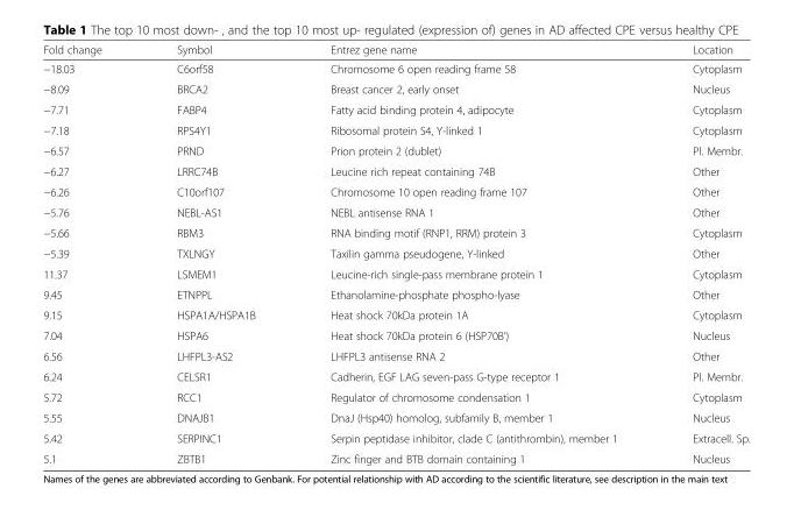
<table><thead><tr><td>Fold change</td><td>Symbol</td><td>Entrez gene name</td><td>Location</td></tr></thead><tbody><tr><td>−18.03</td><td>C6orf58</td><td>Chromosome 6 open reading frame 58</td><td>Cytoplasm</td></tr><tr><td>−8.09</td><td>BRCA2</td><td>Breast cancer 2, early onset</td><td>Nucleus</td></tr><tr><td>−7.71</td><td>FABP4</td><td>Fatty acid binding protein 4, adipocyte</td><td>Cytoplasm</td></tr><tr><td>−7.18</td><td>RPS4Y1</td><td>Ribosomal protein S4, Y-linked 1</td><td>Cytoplasm</td></tr><tr><td>−6.57</td><td>PRND</td><td>Prion protein 2 (dublet)</td><td>Pl. Membr.</td></tr><tr><td>−6.27</td><td>LRRC74B</td><td>Leucine rich repeat containing 74B</td><td>Other</td></tr><tr><td>−6.26</td><td>C10orf107</td><td>Chromosome 10 open reading frame 107</td><td>Other</td></tr><tr><td>−5.76</td><td>NEBL-AS1</td><td>NEBL antisense RNA 1</td><td>Other</td></tr><tr><td>−5.66</td><td>RBM3</td><td>RNA binding motif (RNP1, RRM) protein 3</td><td>Cytoplasm</td></tr><tr><td>−5.39</td><td>TXLNGY</td><td>Taxilin gamma pseudogene, Y-linked</td><td>Other</td></tr><tr><td>11.37</td><td>LSMEM1</td><td>Leucine-rich single-pass membrane protein 1</td><td>Cytoplasm</td></tr><tr><td>9.45</td><td>ETNPPL</td><td>Ethanolamine-phosphate phospho-lyase</td><td>Other</td></tr><tr><td>9.15</td><td>HSPA1A/HSPA1B</td><td>Heat shock 70kDa protein 1A</td><td>Cytoplasm</td></tr><tr><td>7.04</td><td>HSPA6</td><td>Heat shock 70kDa protein 6 (HSP70B’)</td><td>Nucleus</td></tr><tr><td>6.56</td><td>LHFPL3-AS2</td><td>LHFPL3 antisense RNA 2</td><td>Other</td></tr><tr><td>6.24</td><td>CELSR1</td><td>Cadherin, EGF LAG seven-pass G-type receptor 1</td><td>Pl. Membr.</td></tr><tr><td>5.72</td><td>RCC1</td><td>Regulator of chromosome condensation 1</td><td>Cytoplasm</td></tr><tr><td>5.55</td><td>DNAJB1</td><td>DnaJ (Hsp40) homolog, subfamily B, member 1</td><td>Nucleus</td></tr><tr><td>5.42</td><td>SERPINC1</td><td>Serpin peptidase inhibitor, clade C (antithrombin), member 1</td><td>Extracell. Sp.</td></tr><tr><td>5.1</td><td>ZBTB1</td><td>Zinc finger and BTB domain containing 1</td><td>Nucleus</td></tr></tbody></table>